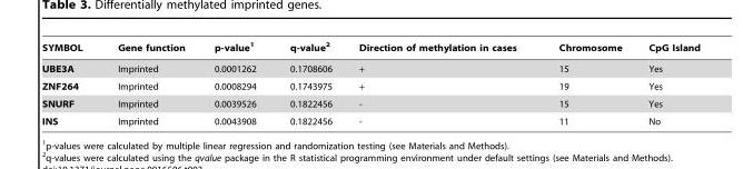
<table><thead><tr><td>SYMBOL</td><td>Gene function</td><td>p-value<sup>1</sup></td><td>q-value<sup>2</sup></td><td>Direction of methylation in cases</td><td>Chromosome</td><td>CpG Island</td></tr></thead><tbody><tr><td>UBE3A</td><td>Imprinted</td><td>0.0001262</td><td>0.1708606</td><td>+</td><td>15</td><td>Yes</td></tr><tr><td>ZNF264</td><td>Imprinted</td><td>0.0008294</td><td>0.1743975</td><td>+</td><td>19</td><td>Yes</td></tr><tr><td>SNURF</td><td>Imprinted</td><td>0.0039526</td><td>0.1822456</td><td>-</td><td>15</td><td>Yes</td></tr><tr><td>INS</td><td>Imprinted</td><td>0.0043908</td><td>0.1822456</td><td>-</td><td>11</td><td>No</td></tr></tbody></table>